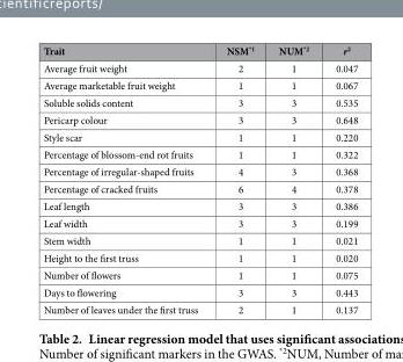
<table><thead><tr><td>Trait</td><td>NSM*1</td><td>NUM*2</td><td>r<sup>2</sup></td></tr></thead><tbody><tr><td>Average fruit weight</td><td>2</td><td>1</td><td>0.047</td></tr><tr><td>Average marketable fruit weight</td><td>1</td><td>1</td><td>0.067</td></tr><tr><td>Soluble solids content</td><td>3</td><td>3</td><td>0.535</td></tr><tr><td>Pericarp colour</td><td>3</td><td>3</td><td>0.648</td></tr><tr><td>Style scar</td><td>1</td><td>1</td><td>0.220</td></tr><tr><td>Percentage of blossom-end rot fruits</td><td>1</td><td>1</td><td>0.322</td></tr><tr><td>Percentage of irregular-shaped fruits</td><td>4</td><td>3</td><td>0.368</td></tr><tr><td>Percentage of cracked fruits</td><td>6</td><td>4</td><td>0.378</td></tr><tr><td>Leaf length</td><td>3</td><td>3</td><td>0.386</td></tr><tr><td>Leaf width</td><td>3</td><td>3</td><td>0.199</td></tr><tr><td>Stem width</td><td>1</td><td>1</td><td>0.021</td></tr><tr><td>Height to the first truss</td><td>1</td><td>1</td><td>0.020</td></tr><tr><td>Number of flowers</td><td>1</td><td>1</td><td>0.075</td></tr><tr><td>Days to flowering</td><td>3</td><td>3</td><td>0.443</td></tr><tr><td>Number of leaves under the first truss</td><td>2</td><td>1</td><td>0.137</td></tr></tbody></table>